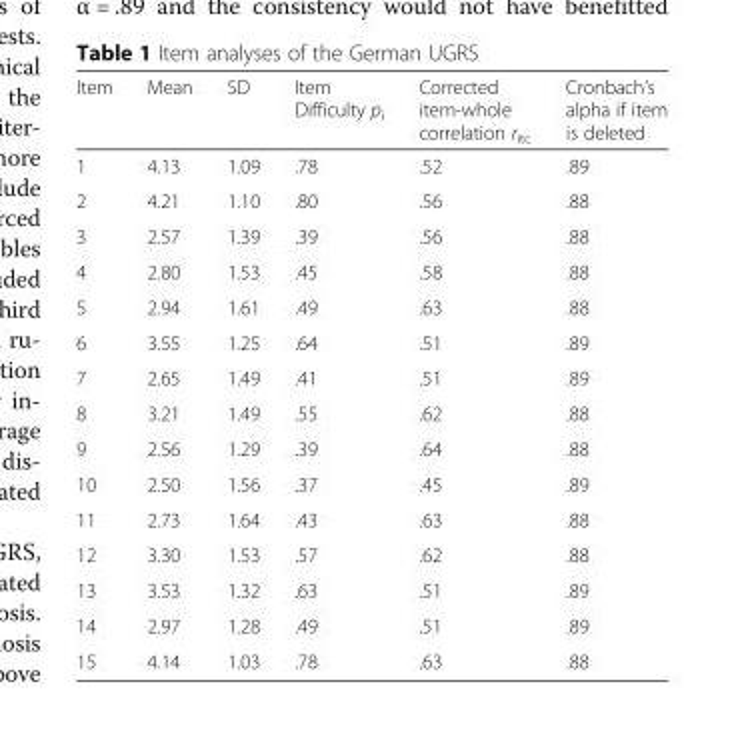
<table><thead><tr><td>Item</td><td>Mean</td><td>SD</td><td>Item Difficulty p<sub>i</sub></td><td>Corrected item-whole correlation r<sub>itc</sub></td><td>Cronbach’s alpha if item is deleted</td></tr></thead><tbody><tr><td>1</td><td>4.13</td><td>1.09</td><td>.78</td><td>.52</td><td>.89</td></tr><tr><td>2</td><td>4.21</td><td>1.10</td><td>.80</td><td>.56</td><td>.88</td></tr><tr><td>3</td><td>2.57</td><td>1.39</td><td>.39</td><td>.56</td><td>.88</td></tr><tr><td>4</td><td>2.80</td><td>1.53</td><td>.45</td><td>.58</td><td>.88</td></tr><tr><td>5</td><td>2.94</td><td>1.61</td><td>.49</td><td>.63</td><td>.88</td></tr><tr><td>6</td><td>3.55</td><td>1.25</td><td>.64</td><td>.51</td><td>.89</td></tr><tr><td>7</td><td>2.65</td><td>1.49</td><td>.41</td><td>.51</td><td>.89</td></tr><tr><td>8</td><td>3.21</td><td>1.49</td><td>.55</td><td>.62</td><td>.88</td></tr><tr><td>9</td><td>2.56</td><td>1.29</td><td>.39</td><td>.64</td><td>.88</td></tr><tr><td>10</td><td>2.50</td><td>1.56</td><td>.37</td><td>.45</td><td>.89</td></tr><tr><td>11</td><td>2.73</td><td>1.64</td><td>.43</td><td>.63</td><td>.88</td></tr><tr><td>12</td><td>3.30</td><td>1.53</td><td>.57</td><td>.62</td><td>.88</td></tr><tr><td>13</td><td>3.53</td><td>1.32</td><td>.63</td><td>.51</td><td>.89</td></tr><tr><td>14</td><td>2.97</td><td>1.28</td><td>.49</td><td>.51</td><td>.89</td></tr><tr><td>15</td><td>4.14</td><td>1.03</td><td>.78</td><td>.63</td><td>.88</td></tr></tbody></table>